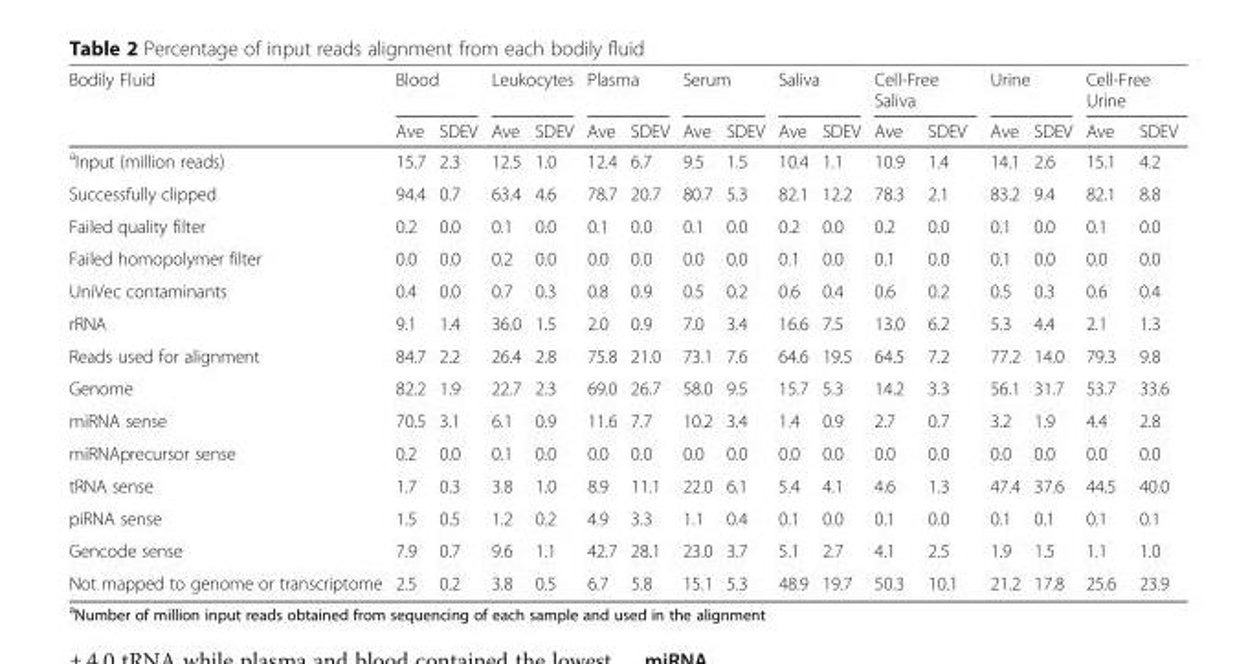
<table><thead><tr><td rowspan="2">Bodily Fluid</td><td colspan="2">Blood</td><td colspan="2">Leukocytes</td><td colspan="2">Plasma</td><td colspan="2">Serum</td><td colspan="2">Saliva</td><td colspan="2">Cell-Free Saliva</td><td colspan="2">Urine</td><td colspan="2">Cell-Free Urine</td></tr><tr><td>Ave</td><td>SDEV</td><td>Ave</td><td>SDEV</td><td>Ave</td><td>SDEV</td><td>Ave</td><td>SDEV</td><td>Ave</td><td>SDEV</td><td>Ave</td><td>SDEV</td><td>Ave</td><td>SDEV</td><td>Ave</td><td>SDEV</td></tr></thead><tbody><tr><td><sup>a</sup>Input (million reads)</td><td>15.7</td><td>2.3</td><td>12.5</td><td>1.0</td><td>12.4</td><td>6.7</td><td>9.5</td><td>1.5</td><td>10.4</td><td>1.1</td><td>10.9</td><td>1.4</td><td>14.1</td><td>2.6</td><td>15.1</td><td>4.2</td></tr><tr><td>Successfully clipped</td><td>94.4</td><td>0.7</td><td>63.4</td><td>4.6</td><td>78.7</td><td>20.7</td><td>80.7</td><td>5.3</td><td>82.1</td><td>12.2</td><td>78.3</td><td>2.1</td><td>83.2</td><td>9.4</td><td>82.1</td><td>8.8</td></tr><tr><td>Failed quality filter</td><td>0.2</td><td>0.0</td><td>0.1</td><td>0.0</td><td>0.1</td><td>0.0</td><td>0.1</td><td>0.0</td><td>0.2</td><td>0.0</td><td>0.2</td><td>0.0</td><td>0.1</td><td>0.0</td><td>0.1</td><td>0.0</td></tr><tr><td>Failed homopolymer filter</td><td>0.0</td><td>0.0</td><td>0.2</td><td>0.0</td><td>0.0</td><td>0.0</td><td>0.0</td><td>0.0</td><td>0.1</td><td>0.0</td><td>0.1</td><td>0.0</td><td>0.1</td><td>0.0</td><td>0.0</td><td>0.0</td></tr><tr><td>UniVec contaminants</td><td>0.4</td><td>0.0</td><td>0.7</td><td>0.3</td><td>0.8</td><td>0.9</td><td>0.5</td><td>0.2</td><td>0.6</td><td>0.4</td><td>0.6</td><td>0.2</td><td>0.5</td><td>0.3</td><td>0.6</td><td>0.4</td></tr><tr><td>rRNA</td><td>9.1</td><td>1.4</td><td>36.0</td><td>1.5</td><td>2.0</td><td>0.9</td><td>7.0</td><td>3.4</td><td>16.6</td><td>7.5</td><td>13.0</td><td>6.2</td><td>5.3</td><td>4.4</td><td>2.1</td><td>1.3</td></tr><tr><td>Reads used for alignment</td><td>84.7</td><td>2.2</td><td>26.4</td><td>2.8</td><td>75.8</td><td>21.0</td><td>73.1</td><td>7.6</td><td>64.6</td><td>19.5</td><td>64.5</td><td>7.2</td><td>77.2</td><td>14.0</td><td>79.3</td><td>9.8</td></tr><tr><td>Genome</td><td>82.2</td><td>1.9</td><td>22.7</td><td>2.3</td><td>69.0</td><td>26.7</td><td>58.0</td><td>9.5</td><td>15.7</td><td>5.3</td><td>14.2</td><td>3.3</td><td>56.1</td><td>31.7</td><td>53.7</td><td>33.6</td></tr><tr><td>miRNA sense</td><td>70.5</td><td>3.1</td><td>6.1</td><td>0.9</td><td>11.6</td><td>7.7</td><td>10.2</td><td>3.4</td><td>1.4</td><td>0.9</td><td>2.7</td><td>0.7</td><td>3.2</td><td>1.9</td><td>4.4</td><td>2.8</td></tr><tr><td>miRNAprecursor sense</td><td>0.2</td><td>0.0</td><td>0.1</td><td>0.0</td><td>0.0</td><td>0.0</td><td>0.0</td><td>0.0</td><td>0.0</td><td>0.0</td><td>0.0</td><td>0.0</td><td>0.0</td><td>0.0</td><td>0.0</td><td>0.0</td></tr><tr><td>tRNA sense</td><td>1.7</td><td>0.3</td><td>3.8</td><td>1.0</td><td>8.9</td><td>11.1</td><td>22.0</td><td>6.1</td><td>5.4</td><td>4.1</td><td>4.6</td><td>1.3</td><td>47.4</td><td>37.6</td><td>44.5</td><td>40.0</td></tr><tr><td>piRNA sense</td><td>1.5</td><td>0.5</td><td>1.2</td><td>0.2</td><td>4.9</td><td>3.3</td><td>1.1</td><td>0.4</td><td>0.1</td><td>0.0</td><td>0.1</td><td>0.0</td><td>0.1</td><td>0.1</td><td>0.1</td><td>0.1</td></tr><tr><td>Gencode sense</td><td>7.9</td><td>0.7</td><td>9.6</td><td>1.1</td><td>42.7</td><td>28.1</td><td>23.0</td><td>3.7</td><td>5.1</td><td>2.7</td><td>4.1</td><td>2.5</td><td>1.9</td><td>1.5</td><td>1.1</td><td>1.0</td></tr><tr><td>Not mapped to genome or transcriptome</td><td>2.5</td><td>0.2</td><td>3.8</td><td>0.5</td><td>6.7</td><td>5.8</td><td>15.1</td><td>5.3</td><td>48.9</td><td>19.7</td><td>50.3</td><td>10.1</td><td>21.2</td><td>17.8</td><td>25.6</td><td>23.9</td></tr></tbody></table>